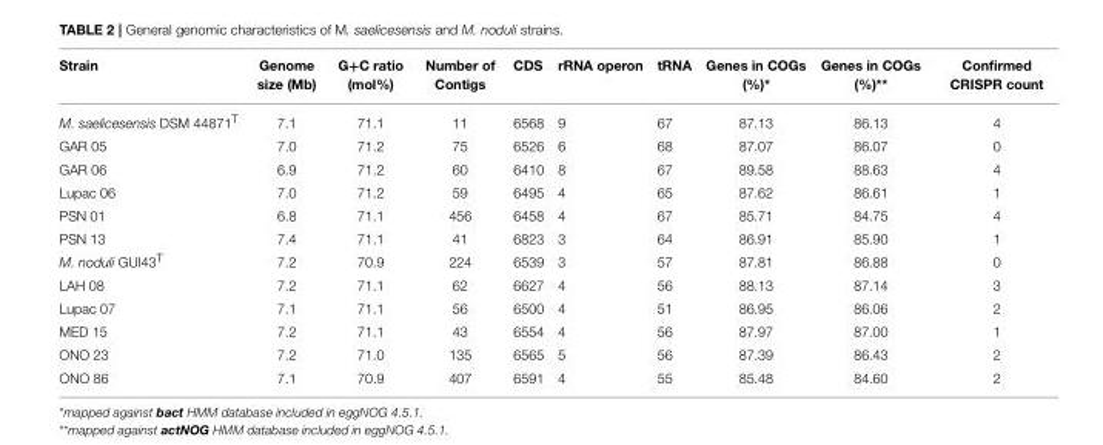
<table><thead><tr><td>Strain</td><td>Genome size (Mb)</td><td>G+C ratio (mol%)</td><td>Number of Contigs</td><td>CDS</td><td>rRNA operon</td><td>tRNA</td><td>Genes in COGs (%)*</td><td>Genes in COGs (%)**</td><td>Confirmed CRISPR count</td></tr></thead><tbody><tr><td>M. saelicesensis DSM 44871<sup>T</sup></td><td>7.1</td><td>71.1</td><td>11</td><td>6568</td><td>9</td><td>67</td><td>87.13</td><td>86.13</td><td>4</td></tr><tr><td>GAR 05</td><td>7.0</td><td>71.2</td><td>75</td><td>6526</td><td>6</td><td>68</td><td>87.07</td><td>86.07</td><td>0</td></tr><tr><td>GAR 06</td><td>6.9</td><td>71.2</td><td>60</td><td>6410</td><td>8</td><td>67</td><td>89.58</td><td>88.63</td><td>4</td></tr><tr><td>Lupac 06</td><td>7.0</td><td>71.2</td><td>59</td><td>6495</td><td>4</td><td>65</td><td>87.62</td><td>86.61</td><td>1</td></tr><tr><td>PSN 01</td><td>6.8</td><td>71.1</td><td>456</td><td>6458</td><td>4</td><td>67</td><td>85.71</td><td>84.75</td><td>4</td></tr><tr><td>PSN 13</td><td>7.4</td><td>71.1</td><td>41</td><td>6823</td><td>3</td><td>64</td><td>86.91</td><td>85.90</td><td>1</td></tr><tr><td>M. noduli GUI43<sup>T</sup></td><td>7.2</td><td>70.9</td><td>224</td><td>6539</td><td>3</td><td>57</td><td>87.81</td><td>86.88</td><td>0</td></tr><tr><td>LAH 08</td><td>7.2</td><td>71.1</td><td>62</td><td>6627</td><td>4</td><td>56</td><td>88.13</td><td>87.14</td><td>3</td></tr><tr><td>Lupac 07</td><td>7.1</td><td>71.1</td><td>56</td><td>6500</td><td>4</td><td>51</td><td>86.95</td><td>86.06</td><td>2</td></tr><tr><td>MED 15</td><td>7.2</td><td>71.1</td><td>43</td><td>6554</td><td>4</td><td>56</td><td>87.97</td><td>87.00</td><td>1</td></tr><tr><td>ONO 23</td><td>7.2</td><td>71.0</td><td>135</td><td>6565</td><td>5</td><td>56</td><td>87.39</td><td>86.43</td><td>2</td></tr><tr><td>ONO 86</td><td>7.1</td><td>70.9</td><td>407</td><td>6591</td><td>4</td><td>55</td><td>85.48</td><td>84.60</td><td>2</td></tr></tbody></table>